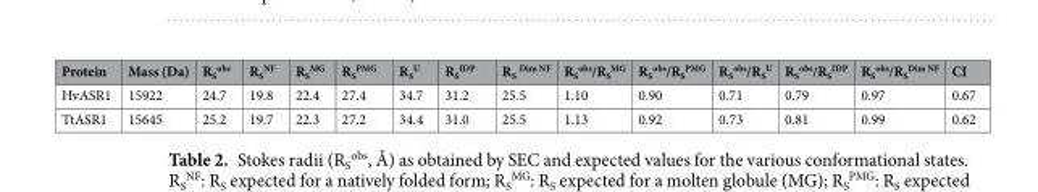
<table><thead><tr><td>Protein</td><td>Mass (Da)</td><td>R<sub>S</sub> <sup>obs</sup></td><td>R<sub>S</sub> <sup>NF</sup></td><td>R<sub>S</sub> <sup>MG</sup></td><td>R<sub>S</sub> <sup>PMG</sup></td><td>R<sub>S</sub> <sup>U</sup></td><td>R<sub>S</sub> <sup>IDP</sup></td><td>R<sub>S</sub> <sup>Dim NF</sup></td><td>R<sub>S</sub> <sup>obs</sup>/R<sub>S</sub> <sup>MG</sup></td><td>R<sub>S</sub> <sup>obs</sup>/R<sub>S</sub> <sup>PMG</sup></td><td>R<sub>S</sub> <sup>obs</sup>/R<sub>S</sub> <sup>U</sup></td><td>R<sub>S</sub> <sup>obs</sup>/R<sub>S</sub> <sup>IDP</sup></td><td>R<sub>S</sub> <sup>obs</sup>/R<sub>S</sub> <sup>Dim NF</sup></td><td>CI</td></tr></thead><tbody><tr><td>HvASR1</td><td>15922</td><td>24.7</td><td>19.8</td><td>22.4</td><td>27.4</td><td>34.7</td><td>31.2</td><td>25.5</td><td>1.10</td><td>0.90</td><td>0.71</td><td>0.79</td><td>0.97</td><td>0.67</td></tr><tr><td>TtASR1</td><td>15645</td><td>25.2</td><td>19.7</td><td>22.3</td><td>27.2</td><td>34.4</td><td>31.0</td><td>25.5</td><td>1.13</td><td>0.92</td><td>0.73</td><td>0.81</td><td>0.99</td><td>0.62</td></tr></tbody></table>